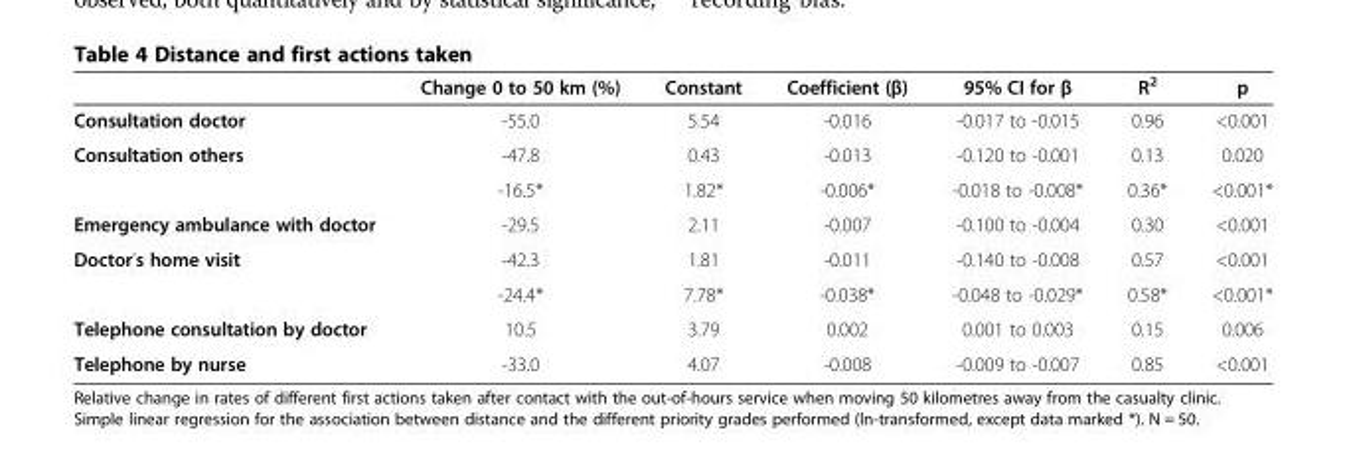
<table><thead><tr><td></td><td>Change 0 to 50 km (%)</td><td>Constant</td><td>Coefficient (β)</td><td>95% CI for β</td><td>R<sup>2</sup></td><td>p</td></tr></thead><tbody><tr><td>Consultation doctor</td><td>-55.0</td><td>5.54</td><td>-0.016</td><td>-0.017 to -0.015</td><td>0.96</td><td>&lt;0.001</td></tr><tr><td rowspan="2">Consultation others</td><td>-47.8</td><td>0.43</td><td>-0.013</td><td>-0.120 to -0.001</td><td>0.13</td><td>0.020</td></tr><tr><td>-16.5*</td><td>1.82*</td><td>-0.006*</td><td>-0.018 to -0.008*</td><td>0.36*</td><td>&lt;0.001*</td></tr><tr><td>Emergency ambulance with doctor</td><td>-29.5</td><td>2.11</td><td>-0.007</td><td>-0.100 to -0.004</td><td>0.30</td><td>&lt;0.001</td></tr><tr><td rowspan="2">Doctor’s home visit</td><td>-42.3</td><td>1.81</td><td>-0.011</td><td>-0.140 to -0.008</td><td>0.57</td><td>&lt;0.001</td></tr><tr><td>-24.4*</td><td>7.78*</td><td>-0.038*</td><td>-0.048 to -0.029*</td><td>0.58*</td><td>&lt;0.001*</td></tr><tr><td>Telephone consultation by doctor</td><td>10.5</td><td>3.79</td><td>0.002</td><td>0.001 to 0.003</td><td>0.15</td><td>0.006</td></tr><tr><td>Telephone by nurse</td><td>-33.0</td><td>4.07</td><td>-0.008</td><td>-0.009 to -0.007</td><td>0.85</td><td>&lt;0.001</td></tr></tbody></table>